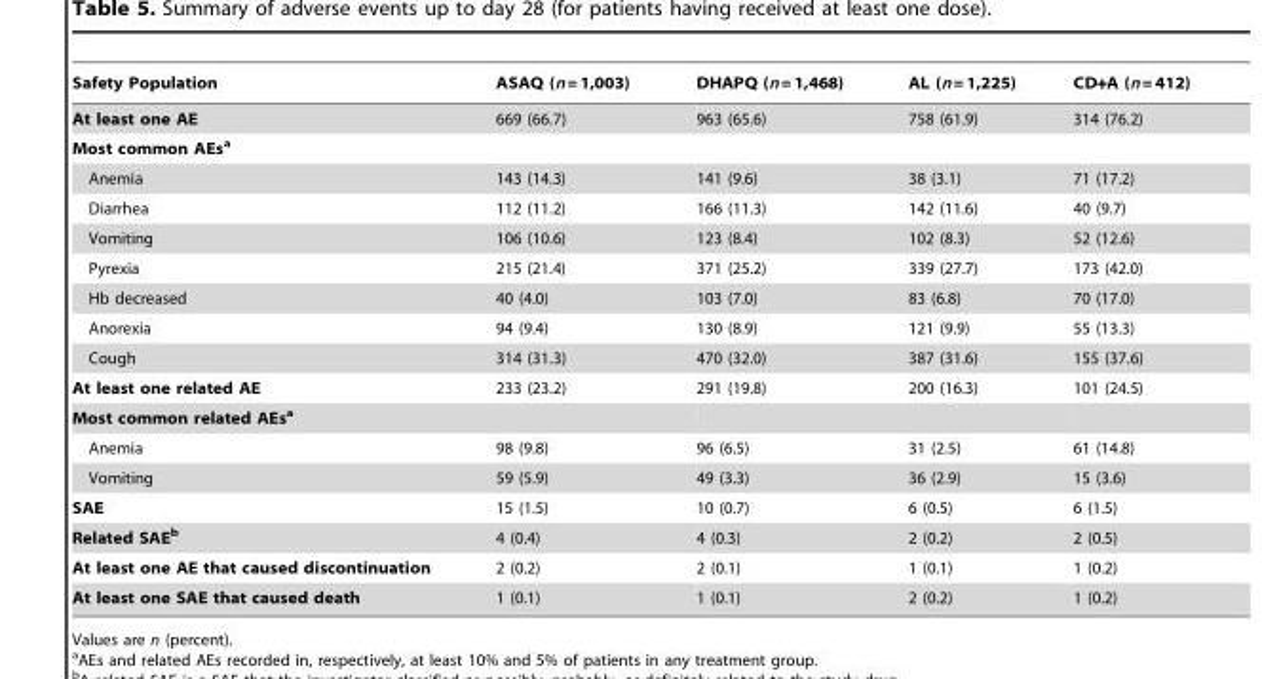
<table><thead><tr><td>Safety Population</td><td>ASAQ (n = 1,003)</td><td>DHAPQ (n = 1,468)</td><td>AL (n = 1,225)</td><td>CD+A (n = 412)</td></tr></thead><tbody><tr><td>At least one AE</td><td>669 (66.7)</td><td>963 (65.6)</td><td>758 (61.9)</td><td>314 (76.2)</td></tr><tr><td colspan="5">Most common AEsa</td></tr><tr><td>Anemia</td><td>143 (14.3)</td><td>141 (9.6)</td><td>38 (3.1)</td><td>71 (17.2)</td></tr><tr><td>Diarrhea</td><td>112 (11.2)</td><td>166 (11.3)</td><td>142 (11.6)</td><td>40 (9.7)</td></tr><tr><td>Vomiting</td><td>106 (10.6)</td><td>123 (8.4)</td><td>102 (8.3)</td><td>52 (12.6)</td></tr><tr><td>Pyrexia</td><td>215 (21.4)</td><td>371 (25.2)</td><td>339 (27.7)</td><td>173 (42.0)</td></tr><tr><td>Hb decreased</td><td>40 (4.0)</td><td>103 (7.0)</td><td>83 (6.8)</td><td>70 (17.0)</td></tr><tr><td>Anorexia</td><td>94 (9.4)</td><td>130 (8.9)</td><td>121 (9.9)</td><td>55 (13.3)</td></tr><tr><td>Cough</td><td>314 (31.3)</td><td>470 (32.0)</td><td>387 (31.6)</td><td>155 (37.6)</td></tr><tr><td>At least one related AE</td><td>233 (23.2)</td><td>291 (19.8)</td><td>200 (16.3)</td><td>101 (24.5)</td></tr><tr><td colspan="5">Most common related AEsa</td></tr><tr><td>Anemia</td><td>98 (9.8)</td><td>96 (6.5)</td><td>31 (2.5)</td><td>61 (14.8)</td></tr><tr><td>Vomiting</td><td>59 (5.9)</td><td>49 (3.3)</td><td>36 (2.9)</td><td>15 (3.6)</td></tr><tr><td>SAE</td><td>15 (1.5)</td><td>10 (0.7)</td><td>6 (0.5)</td><td>6 (1.5)</td></tr><tr><td>Related SAEb</td><td>4 (0.4)</td><td>4 (0.3)</td><td>2 (0.2)</td><td>2 (0.5)</td></tr><tr><td>At least one AE that caused discontinuation</td><td>2 (0.2)</td><td>2 (0.1)</td><td>1 (0.1)</td><td>1 (0.2)</td></tr><tr><td>At least one SAE that caused death</td><td>1 (0.1)</td><td>1 (0.1)</td><td>2 (0.2)</td><td>1 (0.2)</td></tr></tbody></table>